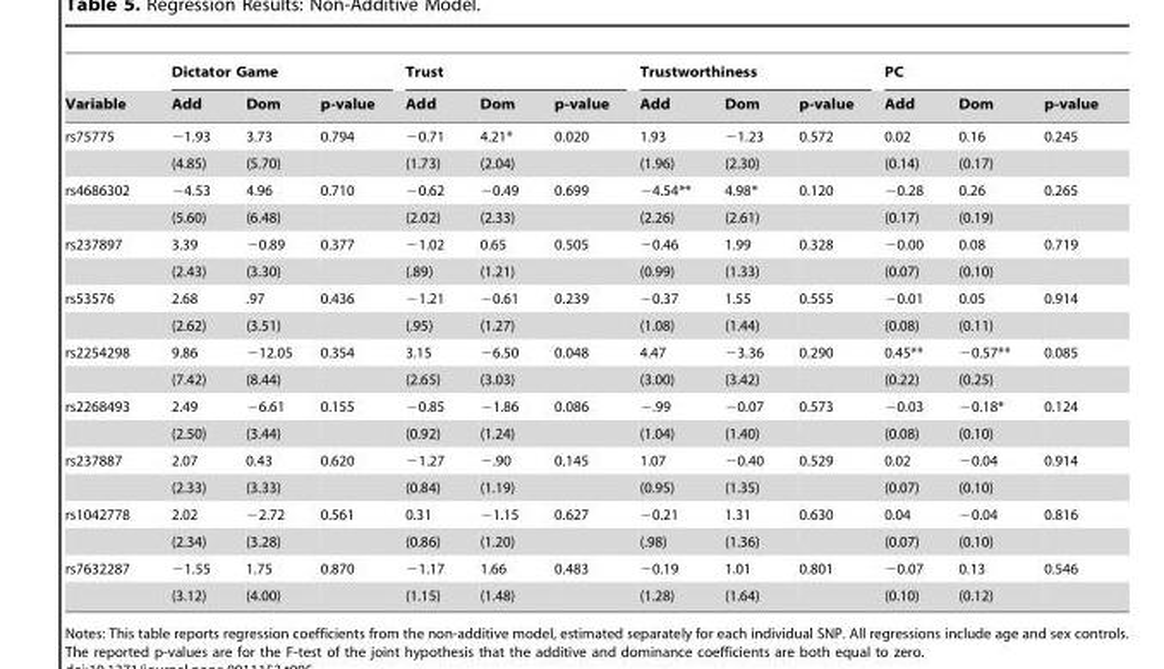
<table><thead><tr><td rowspan="2">Variable</td><td colspan="3">Dictator Game</td><td colspan="3">Trust</td><td colspan="3">Trustworthiness</td><td colspan="3">PC</td></tr><tr><td>Add</td><td>Dom</td><td>p-value</td><td>Add</td><td>Dom</td><td>p-value</td><td>Add</td><td>Dom</td><td>p-value</td><td>Add</td><td>Dom</td><td>p-value</td></tr></thead><tbody><tr><td rowspan="2">rs75775</td><td>−1.93</td><td>3.73</td><td>0.794</td><td>−0.71</td><td>4.21*</td><td>0.020</td><td>1.93</td><td>−1.23</td><td>0.572</td><td>0.02</td><td>0.16</td><td>0.245</td></tr><tr><td>(4.85)</td><td>(5.70)</td><td></td><td>(1.73)</td><td>(2.04)</td><td></td><td>(1.96)</td><td>(2.30)</td><td></td><td>(0.14)</td><td>(0.17)</td><td></td></tr><tr><td rowspan="2">rs4686302</td><td>−4.53</td><td>4.96</td><td>0.710</td><td>−0.62</td><td>−0.49</td><td>0.699</td><td>−4.54**</td><td>4.98*</td><td>0.120</td><td>−0.28</td><td>0.26</td><td>0.265</td></tr><tr><td>(5.60)</td><td>(6.48)</td><td></td><td>(2.02)</td><td>(2.33)</td><td></td><td>(2.26)</td><td>(2.61)</td><td></td><td>(0.17)</td><td>(0.19)</td><td></td></tr><tr><td rowspan="2">rs237897</td><td>3.39</td><td>−0.89</td><td>0.377</td><td>−1.02</td><td>0.65</td><td>0.505</td><td>−0.46</td><td>1.99</td><td>0.328</td><td>−0.00</td><td>0.08</td><td>0.719</td></tr><tr><td>(2.43)</td><td>(3.30)</td><td></td><td>(.89)</td><td>(1.21)</td><td></td><td>(0.99)</td><td>(1.33)</td><td></td><td>(0.07)</td><td>(0.10)</td><td></td></tr><tr><td rowspan="2">rs53576</td><td>2.68</td><td>.97</td><td>0.436</td><td>−1.21</td><td>−0.61</td><td>0.239</td><td>−0.37</td><td>1.55</td><td>0.555</td><td>−0.01</td><td>0.05</td><td>0.914</td></tr><tr><td>(2.62)</td><td>(3.51)</td><td></td><td>(.95)</td><td>(1.27)</td><td></td><td>(1.08)</td><td>(1.44)</td><td></td><td>(0.08)</td><td>(0.11)</td><td></td></tr><tr><td rowspan="2">rs2254298</td><td>9.86</td><td>−12.05</td><td>0.354</td><td>3.15</td><td>−6.50</td><td>0.048</td><td>4.47</td><td>−3.36</td><td>0.290</td><td>0.45**</td><td>−0.57**</td><td>0.085</td></tr><tr><td>(7.42)</td><td>(8.44)</td><td></td><td>(2.65)</td><td>(3.03)</td><td></td><td>(3.00)</td><td>(3.42)</td><td></td><td>(0.22)</td><td>(0.25)</td><td></td></tr><tr><td rowspan="2">rs2268493</td><td>2.49</td><td>−6.61</td><td>0.155</td><td>−0.85</td><td>−1.86</td><td>0.086</td><td>−.99</td><td>−0.07</td><td>0.573</td><td>−0.03</td><td>−0.18*</td><td>0.124</td></tr><tr><td>(2.50)</td><td>(3.44)</td><td></td><td>(0.92)</td><td>(1.24)</td><td></td><td>(1.04)</td><td>(1.40)</td><td></td><td>(0.08)</td><td>(0.10)</td><td></td></tr><tr><td rowspan="2">rs237887</td><td>2.07</td><td>0.43</td><td>0.620</td><td>−1.27</td><td>−.90</td><td>0.145</td><td>1.07</td><td>−0.40</td><td>0.529</td><td>0.02</td><td>−0.04</td><td>0.914</td></tr><tr><td>(2.33)</td><td>(3.33)</td><td></td><td>(0.84)</td><td>(1.19)</td><td></td><td>(0.95)</td><td>(1.35)</td><td></td><td>(0.07)</td><td>(0.10)</td><td></td></tr><tr><td rowspan="2">rs1042778</td><td>2.02</td><td>−2.72</td><td>0.561</td><td>0.31</td><td>−1.15</td><td>0.627</td><td>−0.21</td><td>1.31</td><td>0.630</td><td>0.04</td><td>−0.04</td><td>0.816</td></tr><tr><td>(2.34)</td><td>(3.28)</td><td></td><td>(0.86)</td><td>(1.20)</td><td></td><td>(.98)</td><td>(1.36)</td><td></td><td>(0.07)</td><td>(0.10)</td><td></td></tr><tr><td rowspan="2">rs7632287</td><td>−1.55</td><td>1.75</td><td>0.870</td><td>−1.17</td><td>1.66</td><td>0.483</td><td>−0.19</td><td>1.01</td><td>0.801</td><td>−0.07</td><td>0.13</td><td>0.546</td></tr><tr><td>(3.12)</td><td>(4.00)</td><td></td><td>(1.15)</td><td>(1.48)</td><td></td><td>(1.28)</td><td>(1.64)</td><td></td><td>(0.10)</td><td>(0.12)</td><td></td></tr></tbody></table>